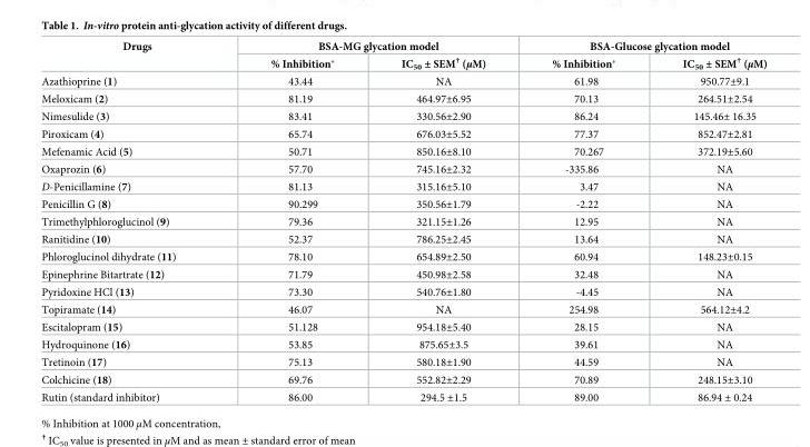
<table><thead><tr><td rowspan="2">Drugs</td><td colspan="2">BSA-MG glycation model</td><td colspan="2">BSA-Glucose glycation model</td></tr><tr><td>% Inhibition*</td><td>IC<sub>50</sub> ± SEM<sup>†</sup> (μM)</td><td>% Inhibition*</td><td>IC<sub>50</sub> ± SEM<sup>†</sup> (μM)</td></tr></thead><tbody><tr><td>Azathioprine (1)</td><td>43.44</td><td>NA</td><td>61.98</td><td>950.77±9.1</td></tr><tr><td>Meloxicam (2)</td><td>81.19</td><td>464.97±6.95</td><td>70.13</td><td>264.51±2.54</td></tr><tr><td>Nimesulide (3)</td><td>83.41</td><td>330.56±2.90</td><td>86.24</td><td>145.46± 16.35</td></tr><tr><td>Piroxicam (4)</td><td>65.74</td><td>676.03±5.52</td><td>77.37</td><td>852.47±2.81</td></tr><tr><td>Mefenamic Acid (5)</td><td>50.71</td><td>850.16±8.10</td><td>70.267</td><td>372.19±5.60</td></tr><tr><td>Oxaprozin (6)</td><td>57.70</td><td>745.16±2.32</td><td>-335.86</td><td>NA</td></tr><tr><td>D-Penicillamine (7)</td><td>81.13</td><td>315.16±5.10</td><td>3.47</td><td>NA</td></tr><tr><td>Penicillin G (8)</td><td>90.299</td><td>350.56±1.79</td><td>-2.22</td><td>NA</td></tr><tr><td>Trimethylphloroglucinol (9)</td><td>79.36</td><td>321.15±1.26</td><td>12.95</td><td>NA</td></tr><tr><td>Ranitidine (10)</td><td>52.37</td><td>786.25±2.45</td><td>13.64</td><td>NA</td></tr><tr><td>Phloroglucinol dihydrate (11)</td><td>78.10</td><td>654.89±2.50</td><td>60.94</td><td>148.23±0.15</td></tr><tr><td>Epinephrine Bitartrate (12)</td><td>71.79</td><td>450.98±2.58</td><td>32.48</td><td>NA</td></tr><tr><td>Pyridoxine HCl (13)</td><td>73.30</td><td>540.76±1.80</td><td>-4.45</td><td>NA</td></tr><tr><td>Topiramate (14)</td><td>46.07</td><td>NA</td><td>254.98</td><td>564.12±4.2</td></tr><tr><td>Escitalopram (15)</td><td>51.128</td><td>954.18±5.40</td><td>28.15</td><td>NA</td></tr><tr><td>Hydroquinone (16)</td><td>53.85</td><td>875.65±3.5</td><td>39.61</td><td>NA</td></tr><tr><td>Tretinoin (17)</td><td>75.13</td><td>580.18±1.90</td><td>44.59</td><td>NA</td></tr><tr><td>Colchicine (18)</td><td>69.76</td><td>552.82±2.29</td><td>70.89</td><td>248.15±3.10</td></tr><tr><td>Rutin (standard inhibitor)</td><td>86.00</td><td>294.5 ±1.5</td><td>89.00</td><td>86.94 ± 0.24</td></tr></tbody></table>